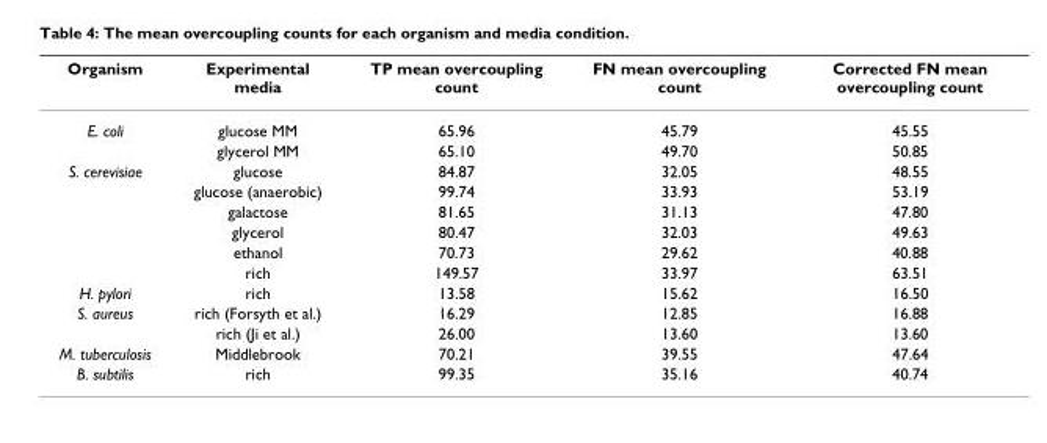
<table><thead><tr><td>Organism</td><td>Experimental media</td><td>TP mean overcoupling count</td><td>FN mean overcoupling count</td><td>Corrected FN mean overcoupling count</td></tr></thead><tbody><tr><td rowspan="2">E. coli</td><td>glucose MM</td><td>65.96</td><td>45.79</td><td>45.55</td></tr><tr><td>glycerol MM</td><td>65.10</td><td>49.70</td><td>50.85</td></tr><tr><td rowspan="6">S. cerevisiae</td><td>glucose</td><td>84.87</td><td>32.05</td><td>48.55</td></tr><tr><td>glucose (anaerobic)</td><td>99.74</td><td>33.93</td><td>53.19</td></tr><tr><td>galactose</td><td>81.65</td><td>31.13</td><td>47.80</td></tr><tr><td>glycerol</td><td>80.47</td><td>32.03</td><td>49.63</td></tr><tr><td>ethanol</td><td>70.73</td><td>29.62</td><td>40.88</td></tr><tr><td>rich</td><td>149.57</td><td>33.97</td><td>63.51</td></tr><tr><td>H. pylori</td><td>rich</td><td>13.58</td><td>15.62</td><td>16.50</td></tr><tr><td rowspan="2">S. aureus</td><td>rich (Forsyth et al.)</td><td>16.29</td><td>12.85</td><td>16.88</td></tr><tr><td>rich (Ji et al.)</td><td>26.00</td><td>13.60</td><td>13.60</td></tr><tr><td>M. tuberculosis</td><td>Middlebrook</td><td>70.21</td><td>39.55</td><td>47.64</td></tr><tr><td>B. subtilis</td><td>rich</td><td>99.35</td><td>35.16</td><td>40.74</td></tr></tbody></table>